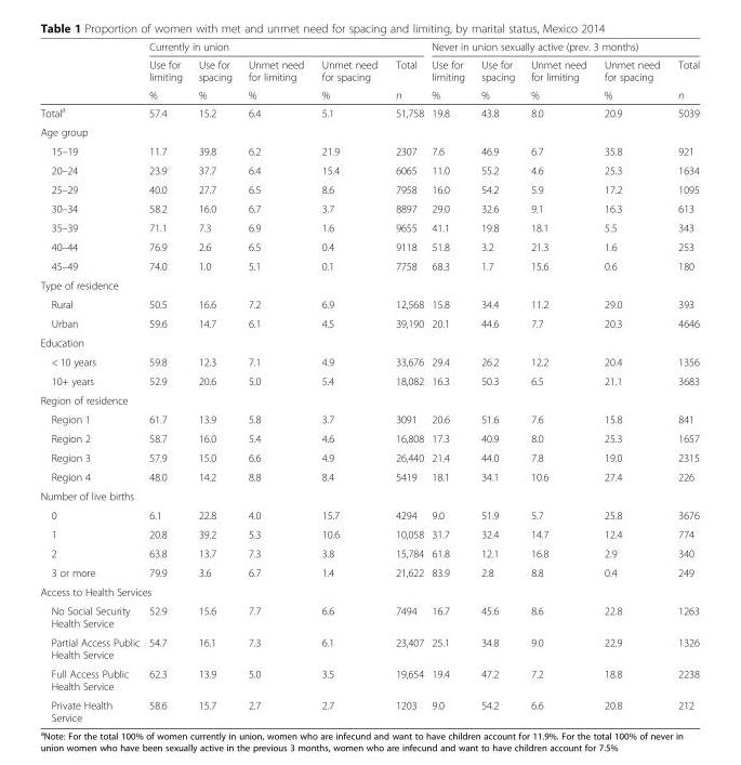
<table><thead><tr><td rowspan="3"></td><td colspan="5">Currently in union</td><td colspan="5">Never in union sexually active (prev. 3 months)</td></tr><tr><td rowspan="2">Use for limiting %</td><td rowspan="2">Use for spacing %</td><td rowspan="2">Unmet need for limiting %</td><td rowspan="2">Unmet need for spacing %</td><td rowspan="2">Total n</td><td rowspan="2">Use for limiting %</td><td rowspan="2">Use for spacing %</td><td rowspan="2">Unmet need for limiting %</td><td rowspan="2">Unmet need for spacing %</td><td rowspan="2">Total n</td></tr><tr></tr></thead><tbody><tr><td>Total<sup>a</sup></td><td>57.4</td><td>15.2</td><td>6.4</td><td>5.1</td><td>51,758</td><td>19.8</td><td>43.8</td><td>8.0</td><td>20.9</td><td>5039</td></tr><tr><td colspan="11">Age group</td></tr><tr><td>15–19</td><td>11.7</td><td>39.8</td><td>6.2</td><td>21.9</td><td>2307</td><td>7.6</td><td>46.9</td><td>6.7</td><td>35.8</td><td>921</td></tr><tr><td>20–24</td><td>23.9</td><td>37.7</td><td>6.4</td><td>15.4</td><td>6065</td><td>11.0</td><td>55.2</td><td>4.6</td><td>25.3</td><td>1634</td></tr><tr><td>25–29</td><td>40.0</td><td>27.7</td><td>6.5</td><td>8.6</td><td>7958</td><td>16.0</td><td>54.2</td><td>5.9</td><td>17.2</td><td>1095</td></tr><tr><td>30–34</td><td>58.2</td><td>16.0</td><td>6.7</td><td>3.7</td><td>8897</td><td>29.0</td><td>32.6</td><td>9.1</td><td>16.3</td><td>613</td></tr><tr><td>35–39</td><td>71.1</td><td>7.3</td><td>6.9</td><td>1.6</td><td>9655</td><td>41.1</td><td>19.8</td><td>18.1</td><td>5.5</td><td>343</td></tr><tr><td>40–44</td><td>76.9</td><td>2.6</td><td>6.5</td><td>0.4</td><td>9118</td><td>51.8</td><td>3.2</td><td>21.3</td><td>1.6</td><td>253</td></tr><tr><td>45–49</td><td>74.0</td><td>1.0</td><td>5.1</td><td>0.1</td><td>7758</td><td>68.3</td><td>1.7</td><td>15.6</td><td>0.6</td><td>180</td></tr><tr><td colspan="11">Type of residence</td></tr><tr><td>Rural</td><td>50.5</td><td>16.6</td><td>7.2</td><td>6.9</td><td>12,568</td><td>15.8</td><td>34.4</td><td>11.2</td><td>29.0</td><td>393</td></tr><tr><td>Urban</td><td>59.6</td><td>14.7</td><td>6.1</td><td>4.5</td><td>39,190</td><td>20.1</td><td>44.6</td><td>7.7</td><td>20.3</td><td>4646</td></tr><tr><td colspan="11">Education</td></tr><tr><td>&lt; 10 years</td><td>59.8</td><td>12.3</td><td>7.1</td><td>4.9</td><td>33,676</td><td>29.4</td><td>26.2</td><td>12.2</td><td>20.4</td><td>1356</td></tr><tr><td>10+ years</td><td>52.9</td><td>20.6</td><td>5.0</td><td>5.4</td><td>18,082</td><td>16.3</td><td>50.3</td><td>6.5</td><td>21.1</td><td>3683</td></tr><tr><td colspan="11">Region of residence</td></tr><tr><td>Region 1</td><td>61.7</td><td>13.9</td><td>5.8</td><td>3.7</td><td>3091</td><td>20.6</td><td>51.6</td><td>7.6</td><td>15.8</td><td>841</td></tr><tr><td>Region 2</td><td>58.7</td><td>16.0</td><td>5.4</td><td>4.6</td><td>16,808</td><td>17.3</td><td>40.9</td><td>8.0</td><td>25.3</td><td>1657</td></tr><tr><td>Region 3</td><td>57.9</td><td>15.0</td><td>6.6</td><td>4.9</td><td>26,440</td><td>21.4</td><td>44.0</td><td>7.8</td><td>19.0</td><td>2315</td></tr><tr><td>Region 4</td><td>48.0</td><td>14.2</td><td>8.8</td><td>8.4</td><td>5419</td><td>18.1</td><td>34.1</td><td>10.6</td><td>27.4</td><td>226</td></tr><tr><td colspan="11">Number of live births</td></tr><tr><td>0</td><td>6.1</td><td>22.8</td><td>4.0</td><td>15.7</td><td>4294</td><td>9.0</td><td>51.9</td><td>5.7</td><td>25.8</td><td>3676</td></tr><tr><td>1</td><td>20.8</td><td>39.2</td><td>5.3</td><td>10.6</td><td>10,058</td><td>31.7</td><td>32.4</td><td>14.7</td><td>12.4</td><td>774</td></tr><tr><td>2</td><td>63.8</td><td>13.7</td><td>7.3</td><td>3.8</td><td>15,784</td><td>61.8</td><td>12.1</td><td>16.8</td><td>2.9</td><td>340</td></tr><tr><td>3 or more</td><td>79.9</td><td>3.6</td><td>6.7</td><td>1.4</td><td>21,622</td><td>83.9</td><td>2.8</td><td>8.8</td><td>0.4</td><td>249</td></tr><tr><td colspan="11">Access to Health Services</td></tr><tr><td>No Social Security Health Service</td><td>52.9</td><td>15.6</td><td>7.7</td><td>6.6</td><td>7494</td><td>16.7</td><td>45.6</td><td>8.6</td><td>22.8</td><td>1263</td></tr><tr><td>Partial Access Public Health Service</td><td>54.7</td><td>16.1</td><td>7.3</td><td>6.1</td><td>23,407</td><td>25.1</td><td>34.8</td><td>9.0</td><td>22.9</td><td>1326</td></tr><tr><td>Full Access Public Health Service</td><td>62.3</td><td>13.9</td><td>5.0</td><td>3.5</td><td>19,654</td><td>19.4</td><td>47.2</td><td>7.2</td><td>18.8</td><td>2238</td></tr><tr><td>Private Health Service</td><td>58.6</td><td>15.7</td><td>2.7</td><td>2.7</td><td>1203</td><td>9.0</td><td>54.2</td><td>6.6</td><td>20.8</td><td>212</td></tr></tbody></table>